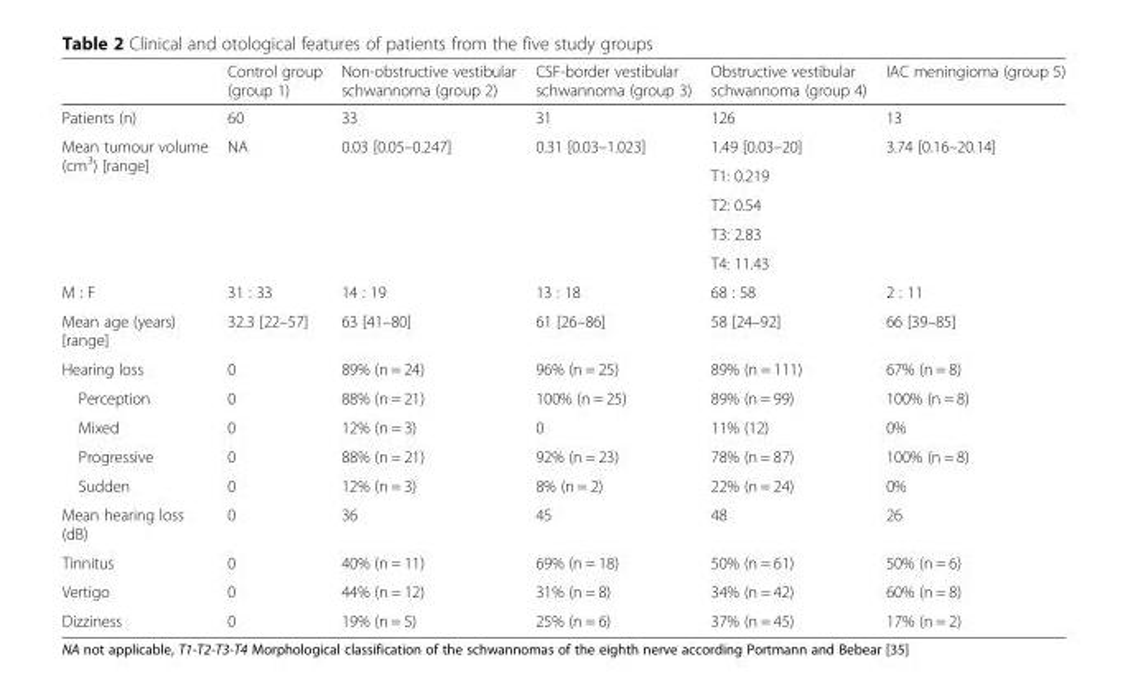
<table><thead><tr><td></td><td>Control group (group 1)</td><td>Non-obstructive vestibular schwannoma (group 2)</td><td>CSF-border vestibular schwannoma (group 3)</td><td>Obstructive vestibular schwannoma (group 4)</td><td>IAC meningioma (group 5)</td></tr></thead><tbody><tr><td>Patients (n)</td><td>60</td><td>33</td><td>31</td><td>126</td><td>13</td></tr><tr><td rowspan="5">Mean tumour volume (cm<sup>3</sup>) [range]</td><td rowspan="5">NA</td><td rowspan="5">0.03 [0.05–0.247]</td><td rowspan="5">0.31 [0.03–1.023]</td><td>1.49 [0.03–20]</td><td rowspan="5">3.74 [0.16–20.14]</td></tr><tr><td>T1: 0.219</td></tr><tr><td>T2: 0.54</td></tr><tr><td>T3: 2.83</td></tr><tr><td>T4: 11.43</td></tr><tr><td>M : F</td><td>31 : 33</td><td>14 : 19</td><td>13 : 18</td><td>68 : 58</td><td>2 : 11</td></tr><tr><td>Mean age (years) [range]</td><td>32.3 [22–57]</td><td>63 [41–80]</td><td>61 [26–86]</td><td>58 [24–92]</td><td>66 [39–85]</td></tr><tr><td>Hearing loss</td><td>0</td><td>89% (n = 24)</td><td>96% (n = 25)</td><td>89% (n = 111)</td><td>67% (n = 8)</td></tr><tr><td>Perception</td><td>0</td><td>88% (n = 21)</td><td>100% (n = 25)</td><td>89% (n = 99)</td><td>100% (n = 8)</td></tr><tr><td>Mixed</td><td>0</td><td>12% (n = 3)</td><td>0</td><td>11% (12)</td><td>0%</td></tr><tr><td>Progressive</td><td>0</td><td>88% (n = 21)</td><td>92% (n = 23)</td><td>78% (n = 87)</td><td>100% (n = 8)</td></tr><tr><td>Sudden</td><td>0</td><td>12% (n = 3)</td><td>8% (n = 2)</td><td>22% (n = 24)</td><td>0%</td></tr><tr><td>Mean hearing loss (dB)</td><td>0</td><td>36</td><td>45</td><td>48</td><td>26</td></tr><tr><td>Tinnitus</td><td>0</td><td>40% (n = 11)</td><td>69% (n = 18)</td><td>50% (n = 61)</td><td>50% (n = 6)</td></tr><tr><td>Vertigo</td><td>0</td><td>44% (n = 12)</td><td>31% (n = 8)</td><td>34% (n = 42)</td><td>60% (n = 8)</td></tr><tr><td>Dizziness</td><td>0</td><td>19% (n = 5)</td><td>25% (n = 6)</td><td>37% (n = 45)</td><td>17% (n = 2)</td></tr></tbody></table>